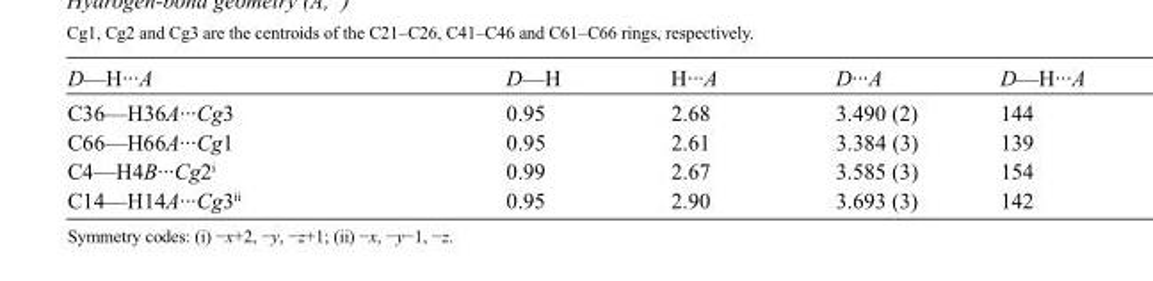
<table><tbody><tr><td>D—H···A</td><td>D—H</td><td>H···A</td><td>D···A</td><td>D—H···A</td></tr><tr><td>C36—H36A···Cg3</td><td>0.95</td><td>2.68</td><td>3.490 (2)</td><td>144</td></tr><tr><td>C66—H66A···Cg1</td><td>0.95</td><td>2.61</td><td>3.384 (3)</td><td>139</td></tr><tr><td>C4—H4B···Cg2<sup>i</sup></td><td>0.99</td><td>2.67</td><td>3.585 (3)</td><td>154</td></tr><tr><td>C14—H14A···Cg3<sup>ii</sup></td><td>0.95</td><td>2.90</td><td>3.693 (3)</td><td>142</td></tr></tbody></table>